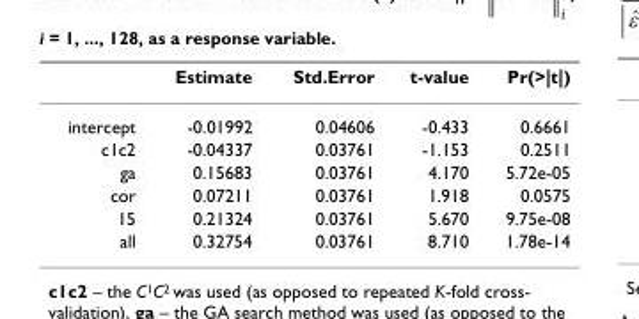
<table><thead><tr><td></td><td>Estimate</td><td>Std.Error</td><td>t-value</td><td>Pr(&gt;|t|)</td></tr></thead><tbody><tr><td>intercept</td><td>-0.01992</td><td>0.04606</td><td>-0.433</td><td>0.6661</td></tr><tr><td>c1c2</td><td>-0.04337</td><td>0.03761</td><td>-1.153</td><td>0.2511</td></tr><tr><td>ga</td><td>0.15683</td><td>0.03761</td><td>4.170</td><td>5.72e-05</td></tr><tr><td>cor</td><td>0.07211</td><td>0.03761</td><td>1.918</td><td>0.0575</td></tr><tr><td>15</td><td>0.21324</td><td>0.03761</td><td>5.670</td><td>9.75e-08</td></tr><tr><td>all</td><td>0.32754</td><td>0.03761</td><td>8.710</td><td>1.78e-14</td></tr></tbody></table>